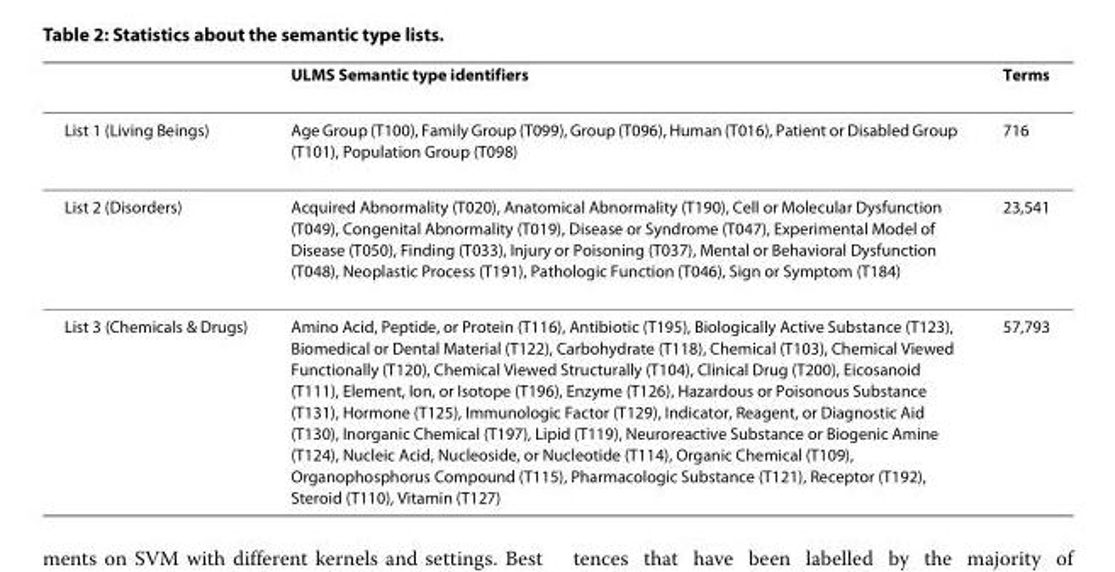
<table><thead><tr><td></td><td>ULMS Semantic type identifiers</td><td>Terms</td></tr></thead><tbody><tr><td>List 1 (Living Beings)</td><td>Age Group (T100), Family Group (T099), Group (T096), Human (T016), Patient or Disabled Group (T101), Population Group (T098)</td><td>716</td></tr><tr><td>List 2 (Disorders)</td><td>Acquired Abnormality (T020), Anatomical Abnormality (T190), Cell or Molecular Dysfunction (T049), Congenital Abnormality (T019), Disease or Syndrome (T047), Experimental Model of Disease (T050), Finding (T033), Injury or Poisoning (T037), Mental or Behavioral Dysfunction (T048), Neoplastic Process (T191), Pathologic Function (T046), Sign or Symptom (T184)</td><td>23,541</td></tr><tr><td>List 3 (Chemicals &amp; Drugs)</td><td>Amino Acid, Peptide, or Protein (T116), Antibiotic (T195), Biologically Active Substance (T123), Biomedical or Dental Material (T122), Carbohydrate (T118), Chemical (T103), Chemical Viewed Functionally (T120), Chemical Viewed Structurally (T104), Clinical Drug (T200), Eicosanoid (T111), Element, Ion, or Isotope (T196), Enzyme (T126), Hazardous or Poisonous Substance (T131), Hormone (T125), Immunologic Factor (T129), Indicator, Reagent, or Diagnostic Aid (T130), Inorganic Chemical (T197), Lipid (T119), Neuroreactive Substance or Biogenic Amine (T124), Nucleic Acid, Nucleoside, or Nucleotide (T114), Organic Chemical (T109), Organophosphorus Compound (T115), Pharmacologic Substance (T121), Receptor (T192), Steroid (T110), Vitamin (T127)</td><td>57,793</td></tr></tbody></table>